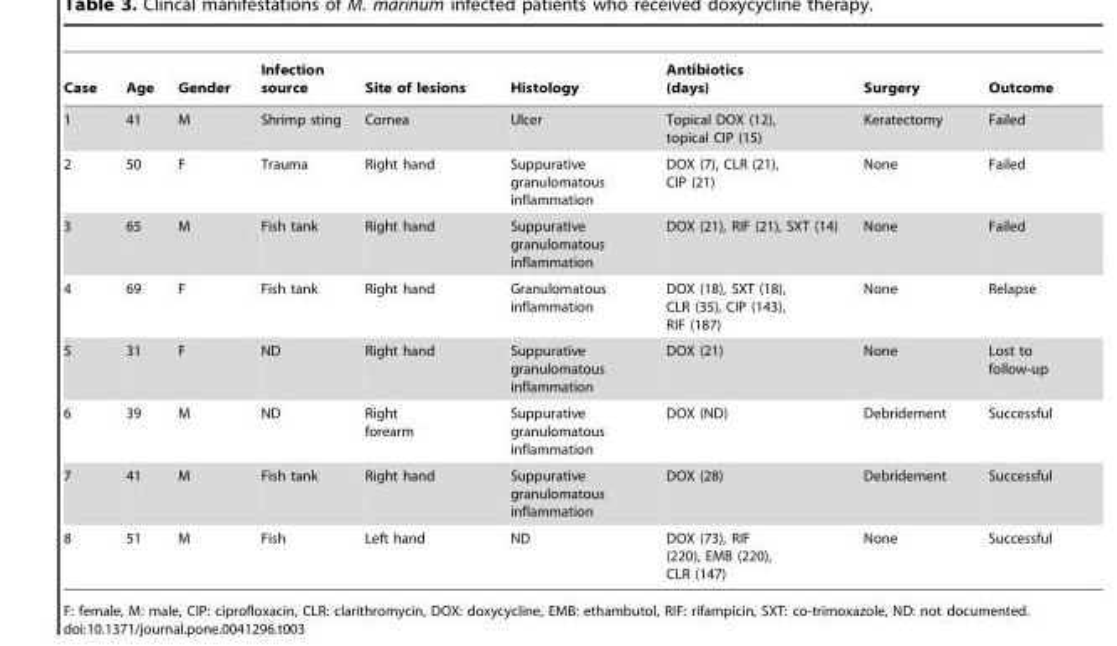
<table><thead><tr><td>Case</td><td>Age</td><td>Gender</td><td>Infection source</td><td>Site of lesions</td><td>Histology</td><td>Antibiotics (days)</td><td>Surgery</td><td>Outcome</td></tr></thead><tbody><tr><td>1</td><td>41</td><td>M</td><td>Shrimp sting</td><td>Cornea</td><td>Ulcer</td><td>Topical DOX (12), topical CIP (15)</td><td>Keratectomy</td><td>Failed</td></tr><tr><td>2</td><td>50</td><td>F</td><td>Trauma</td><td>Right hand</td><td>Suppurative granulomatous inflammation</td><td>DOX (7), CLR (21), CIP (21)</td><td>None</td><td>Failed</td></tr><tr><td>3</td><td>65</td><td>M</td><td>Fish tank</td><td>Right hand</td><td>Suppurative granulomatous inflammation</td><td>DOX (21), RIF (21), SXT (14)</td><td>None</td><td>Failed</td></tr><tr><td>4</td><td>69</td><td>F</td><td>Fish tank</td><td>Right hand</td><td>Granulomatous inflammation</td><td>DOX (18), SXT (18), CLR (35), CIP (143), RIF (187)</td><td>None</td><td>Relapse</td></tr><tr><td>5</td><td>31</td><td>F</td><td>ND</td><td>Right hand</td><td>Suppurative granulomatous inflammation</td><td>DOX (21)</td><td>None</td><td>Lost to follow-up</td></tr><tr><td>6</td><td>39</td><td>M</td><td>ND</td><td>Right forearm</td><td>Suppurative granulomatous inflammation</td><td>DOX (ND)</td><td>Debridement</td><td>Successful</td></tr><tr><td>7</td><td>41</td><td>M</td><td>Fish tank</td><td>Right hand</td><td>Suppurative granulomatous inflammation</td><td>DOX (28)</td><td>Debridement</td><td>Successful</td></tr><tr><td>8</td><td>51</td><td>M</td><td>Fish</td><td>Left hand</td><td>ND</td><td>DOX (73), RIF (220), EMB (220), CLR (147)</td><td>None</td><td>Successful</td></tr></tbody></table>